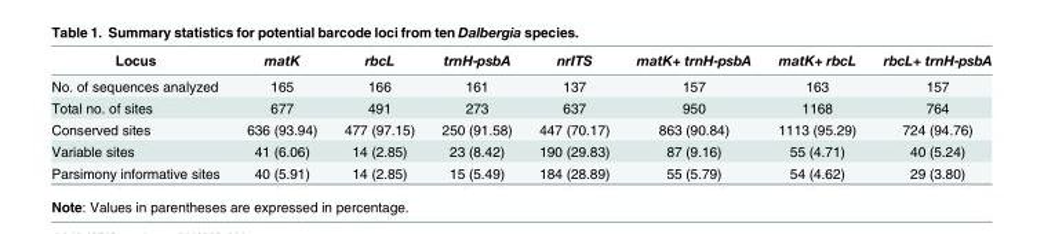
<table><thead><tr><td>Locus</td><td>matK</td><td>rbcL</td><td>trnH-psbA</td><td>nrITS</td><td>matK+ trnH-psbA</td><td>matK+ rbcL</td><td>rbcL+ trnH-psbA</td></tr></thead><tbody><tr><td>No. of sequences analyzed</td><td>165</td><td>166</td><td>161</td><td>137</td><td>157</td><td>163</td><td>157</td></tr><tr><td>Total no. of sites</td><td>677</td><td>491</td><td>273</td><td>637</td><td>950</td><td>1168</td><td>764</td></tr><tr><td>Conserved sites</td><td>636 (93.94)</td><td>477 (97.15)</td><td>250 (91.58)</td><td>447 (70.17)</td><td>863 (90.84)</td><td>1113 (95.29)</td><td>724 (94.76)</td></tr><tr><td>Variable sites</td><td>41 (6.06)</td><td>14 (2.85)</td><td>23 (8.42)</td><td>190 (29.83)</td><td>87 (9.16)</td><td>55 (4.71)</td><td>40 (5.24)</td></tr><tr><td>Parsimony informative sites</td><td>40 (5.91)</td><td>14 (2.85)</td><td>15 (5.49)</td><td>184 (28.89)</td><td>55 (5.79)</td><td>54 (4.62)</td><td>29 (3.80)</td></tr></tbody></table>